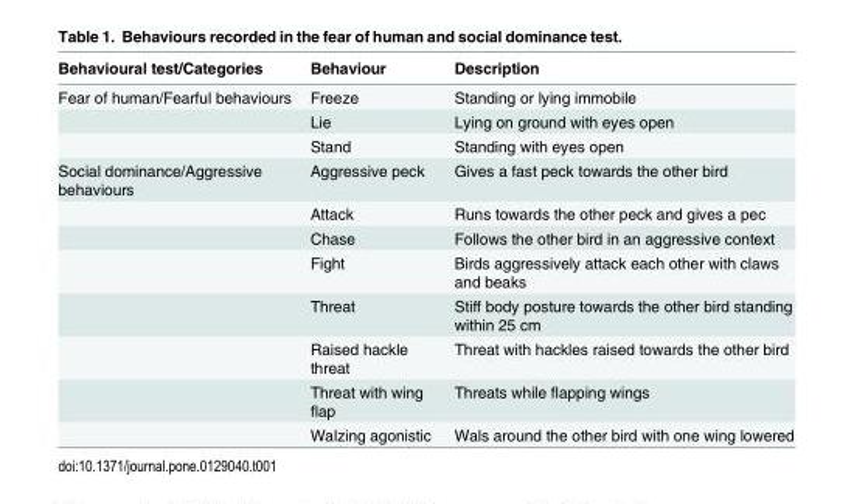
<table><thead><tr><td>Behavioural test/Categories</td><td>Behaviour</td><td>Description</td></tr></thead><tbody><tr><td rowspan="3">Fear of human/Fearful behaviours</td><td>Freeze</td><td>Standing or lying immobile</td></tr><tr><td>Lie</td><td>Lying on ground with eyes open</td></tr><tr><td>Stand</td><td>Standing with eyes open</td></tr><tr><td rowspan="8">Social dominance/Aggressive behaviours</td><td>Aggressive peck</td><td>Gives a fast peck towards the other bird</td></tr><tr><td>Attack</td><td>Runs towards the other peck and gives a pec</td></tr><tr><td>Chase</td><td>Follows the other bird in an aggressive context</td></tr><tr><td>Fight</td><td>Birds aggressively attack each other with claws and beaks</td></tr><tr><td>Threat</td><td>Stiff body posture towards the other bird standing within 25 cm</td></tr><tr><td>Raised hackle threat</td><td>Threat with hackles raised towards the other bird</td></tr><tr><td>Threat with wing flap</td><td>Threats while flapping wings</td></tr><tr><td>Walzing agonistic</td><td>Wals around the other bird with one wing lowered</td></tr></tbody></table>